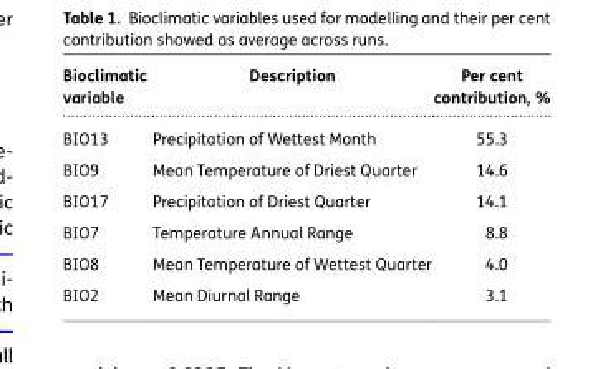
<table><thead><tr><td>Bioclimatic variable</td><td>Description</td><td>Per cent contribution, %</td></tr></thead><tbody><tr><td>BIO13</td><td>Precipitation of Wettest Month</td><td>55.3</td></tr><tr><td>BIO9</td><td>Mean Temperature of Driest Quarter</td><td>14.6</td></tr><tr><td>BIO17</td><td>Precipitation of Driest Quarter</td><td>14.1</td></tr><tr><td>BIO7</td><td>Temperature Annual Range</td><td>8.8</td></tr><tr><td>BIO8</td><td>Mean Temperature of Wettest Quarter</td><td>4.0</td></tr><tr><td>BIO2</td><td>Mean Diurnal Range</td><td>3.1</td></tr></tbody></table>